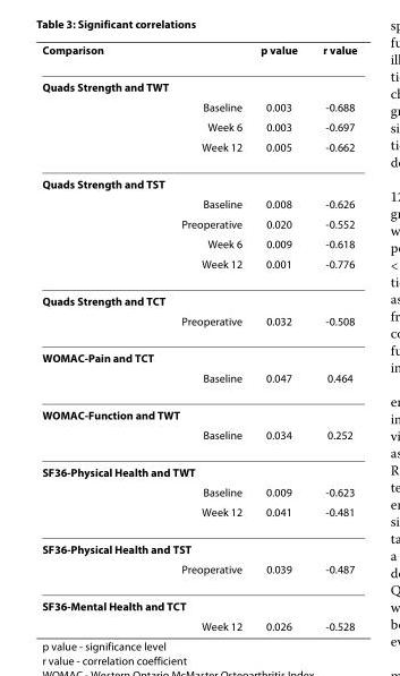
<table><thead><tr><td>Comparison</td><td>p value</td><td>r value</td></tr></thead><tbody><tr><td colspan="3">Quads Strength and TWT</td></tr><tr><td>Baseline</td><td>0.003</td><td>-0.688</td></tr><tr><td>Week 6</td><td>0.003</td><td>-0.697</td></tr><tr><td>Week 12</td><td>0.005</td><td>-0.662</td></tr><tr><td colspan="3">Quads Strength and TST</td></tr><tr><td>Baseline</td><td>0.008</td><td>-0.626</td></tr><tr><td>Preoperative</td><td>0.020</td><td>-0.552</td></tr><tr><td>Week 6</td><td>0.009</td><td>-0.618</td></tr><tr><td>Week 12</td><td>0.001</td><td>-0.776</td></tr><tr><td colspan="3">Quads Strength and TCT</td></tr><tr><td>Preoperative</td><td>0.032</td><td>-0.508</td></tr><tr><td colspan="3">WOMAC-Pain and TCT</td></tr><tr><td>Baseline</td><td>0.047</td><td>0.464</td></tr><tr><td colspan="3">WOMAC-Function and TWT</td></tr><tr><td>Baseline</td><td>0.034</td><td>0.252</td></tr><tr><td colspan="3">SF36-Physical Health and TWT</td></tr><tr><td>Baseline</td><td>0.009</td><td>-0.623</td></tr><tr><td>Week 12</td><td>0.041</td><td>-0.481</td></tr><tr><td colspan="3">SF36-Physical Health and TST</td></tr><tr><td>Preoperative</td><td>0.039</td><td>-0.487</td></tr><tr><td colspan="3">SF36-Mental Health and TCT</td></tr><tr><td>Week 12</td><td>0.026</td><td>-0.528</td></tr></tbody></table>